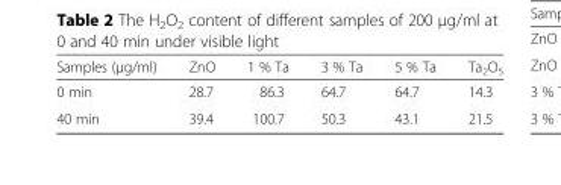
<table><thead><tr><td>Samples (μg/ml)</td><td>ZnO</td><td>1 % Ta</td><td>3 % Ta</td><td>5 % Ta</td><td>Ta<sub>2</sub>O<sub>5</sub></td></tr></thead><tbody><tr><td>0 min</td><td>28.7</td><td>86.3</td><td>64.7</td><td>64.7</td><td>14.3</td></tr><tr><td>40 min</td><td>39.4</td><td>100.7</td><td>50.3</td><td>43.1</td><td>21.5</td></tr></tbody></table>